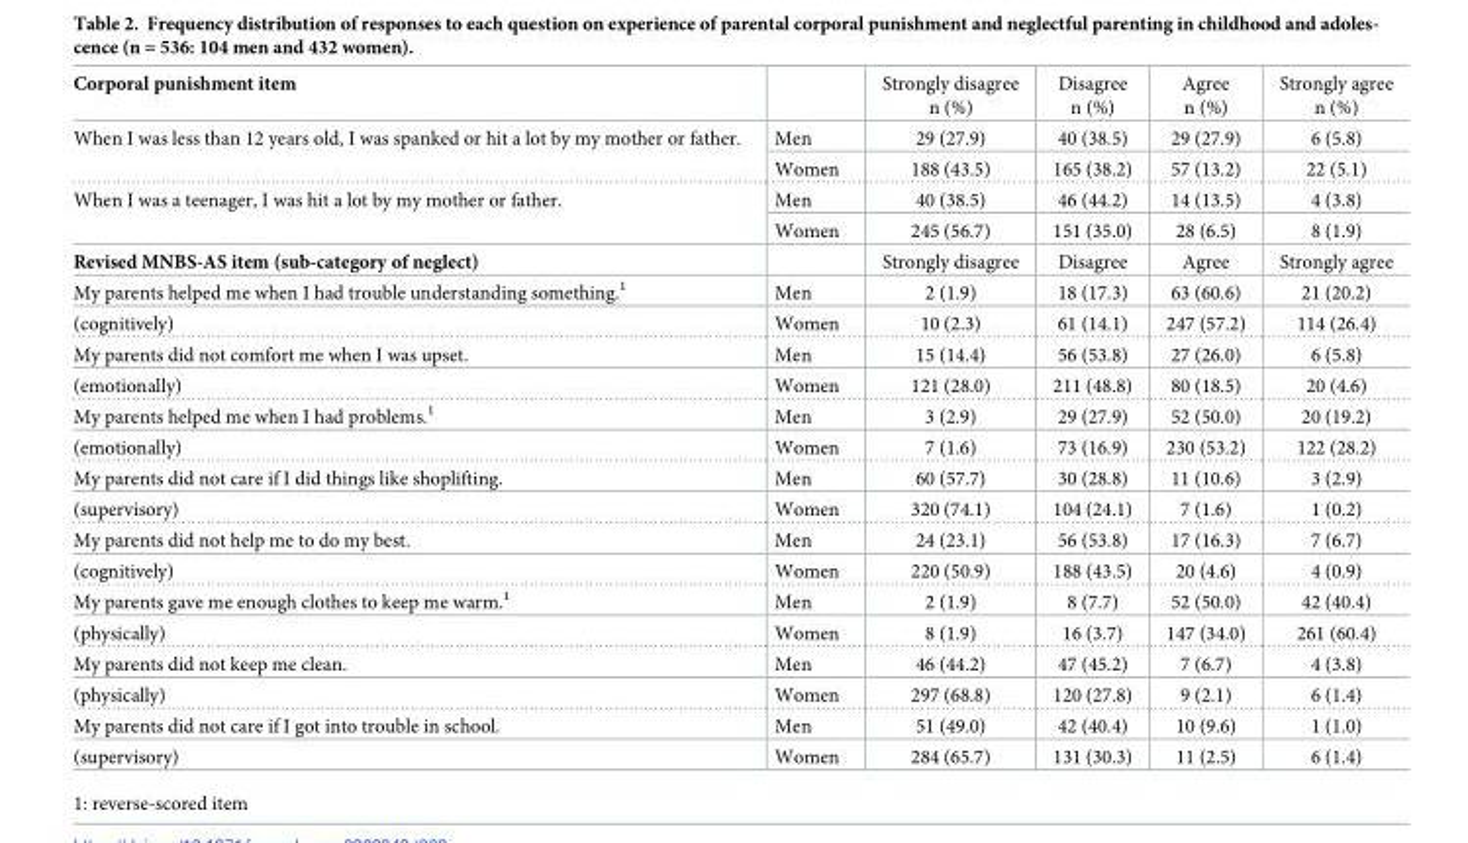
<table><tbody><tr><td>Corporal punishment item</td><td></td><td>Strongly disagree n (%)</td><td>Disagree n (%)</td><td>Agree n (%)</td><td>Strongly agree n (%)</td></tr><tr><td rowspan="2">When I was less than 12 years old, I was spanked or hit a lot by my mother or father.</td><td>Men</td><td>29 (27.9)</td><td>40 (38.5)</td><td>29 (27.9)</td><td>6 (5.8)</td></tr><tr><td>Women</td><td>188 (43.5)</td><td>165 (38.2)</td><td>57 (13.2)</td><td>22 (5.1)</td></tr><tr><td rowspan="2">When I was a teenager, I was hit a lot by my mother or father.</td><td>Men</td><td>40 (38.5)</td><td>46 (44.2)</td><td>14 (13.5)</td><td>4 (3.8)</td></tr><tr><td>Women</td><td>245 (56.7)</td><td>151 (35.0)</td><td>28 (6.5)</td><td>8 (1.9)</td></tr><tr><td>Revised MNBS-AS item (sub-category of neglect)</td><td></td><td>Strongly disagree</td><td>Disagree</td><td>Agree</td><td>Strongly agree</td></tr><tr><td>My parents helped me when I had trouble understanding something.<sup>1</sup></td><td>Men</td><td>2 (1.9)</td><td>18 (17.3)</td><td>63 (60.6)</td><td>21 (20.2)</td></tr><tr><td>(cognitively)</td><td>Women</td><td>10 (2.3)</td><td>61 (14.1)</td><td>247 (57.2)</td><td>114 (26.4)</td></tr><tr><td>My parents did not comfort me when I was upset.</td><td>Men</td><td>15 (14.4)</td><td>56 (53.8)</td><td>27 (26.0)</td><td>6 (5.8)</td></tr><tr><td>(emotionally)</td><td>Women</td><td>121 (28.0)</td><td>211 (48.8)</td><td>80 (18.5)</td><td>20 (4.6)</td></tr><tr><td>My parents helped me when I had problems.<sup>1</sup></td><td>Men</td><td>3 (2.9)</td><td>29 (27.9)</td><td>52 (50.0)</td><td>20 (19.2)</td></tr><tr><td>(emotionally)</td><td>Women</td><td>7 (1.6)</td><td>73 (16.9)</td><td>230 (53.2)</td><td>122 (28.2)</td></tr><tr><td>My parents did not care if I did things like shoplifting.</td><td>Men</td><td>60 (57.7)</td><td>30 (28.8)</td><td>11 (10.6)</td><td>3 (2.9)</td></tr><tr><td>(supervisory)</td><td>Women</td><td>320 (74.1)</td><td>104 (24.1)</td><td>7 (1.6)</td><td>1 (0.2)</td></tr><tr><td>My parents did not help me to do my best.</td><td>Men</td><td>24 (23.1)</td><td>56 (53.8)</td><td>17 (16.3)</td><td>7 (6.7)</td></tr><tr><td>(cognitively)</td><td>Women</td><td>220 (50.9)</td><td>188 (43.5)</td><td>20 (4.6)</td><td>4 (0.9)</td></tr><tr><td>My parents gave me enough clothes to keep me warm.<sup>1</sup></td><td>Men</td><td>2 (1.9)</td><td>8 (7.7)</td><td>52 (50.0)</td><td>42 (40.4)</td></tr><tr><td>(physically)</td><td>Women</td><td>8 (1.9)</td><td>16 (3.7)</td><td>147 (34.0)</td><td>261 (60.4)</td></tr><tr><td>My parents did not keep me clean.</td><td>Men</td><td>46 (44.2)</td><td>47 (45.2)</td><td>7 (6.7)</td><td>4 (3.8)</td></tr><tr><td>(physically)</td><td>Women</td><td>297 (68.8)</td><td>120 (27.8)</td><td>9 (2.1)</td><td>6 (1.4)</td></tr><tr><td>My parents did not care if I got into trouble in school.</td><td>Men</td><td>51 (49.0)</td><td>42 (40.4)</td><td>10 (9.6)</td><td>1 (1.0)</td></tr><tr><td>(supervisory)</td><td>Women</td><td>284 (65.7)</td><td>131 (30.3)</td><td>11 (2.5)</td><td>6 (1.4)</td></tr></tbody></table>